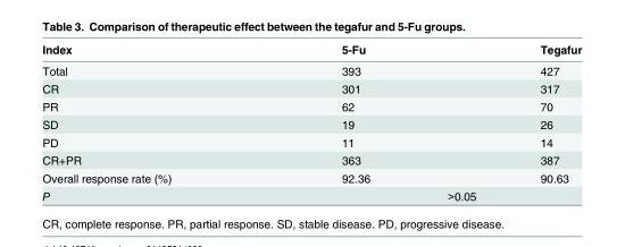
<table><thead><tr><td>Index</td><td>5-Fu</td><td>Tegafur</td></tr></thead><tbody><tr><td>Total</td><td>393</td><td>427</td></tr><tr><td>CR</td><td>301</td><td>317</td></tr><tr><td>PR</td><td>62</td><td>70</td></tr><tr><td>SD</td><td>19</td><td>26</td></tr><tr><td>PD</td><td>11</td><td>14</td></tr><tr><td>CR+PR</td><td>363</td><td>387</td></tr><tr><td>Overall response rate (%)</td><td>92.36</td><td>90.63</td></tr><tr><td>P</td><td colspan="2">&gt;0.05</td></tr></tbody></table>